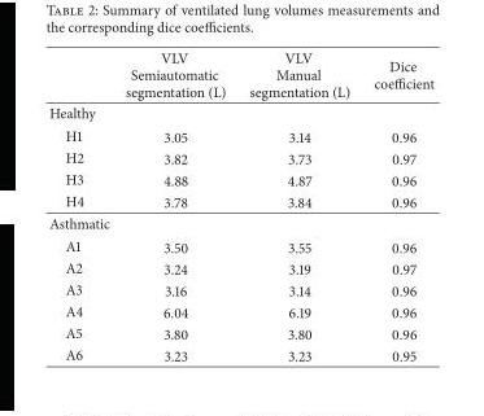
<table><thead><tr><td></td><td>VLV Semiautomatic segmentation (L)</td><td>VLV Manual segmentation (L)</td><td>Dice coefficient</td></tr></thead><tbody><tr><td colspan="4">Healthy</td></tr><tr><td>H1</td><td>3.05</td><td>3.14</td><td>0.96</td></tr><tr><td>H2</td><td>3.82</td><td>3.73</td><td>0.97</td></tr><tr><td>H3</td><td>4.88</td><td>4.87</td><td>0.96</td></tr><tr><td>H4</td><td>3.78</td><td>3.84</td><td>0.96</td></tr><tr><td colspan="4">Asthmatic</td></tr><tr><td>A1</td><td>3.50</td><td>3.55</td><td>0.96</td></tr><tr><td>A2</td><td>3.24</td><td>3.19</td><td>0.97</td></tr><tr><td>A3</td><td>3.16</td><td>3.14</td><td>0.96</td></tr><tr><td>A4</td><td>6.04</td><td>6.19</td><td>0.96</td></tr><tr><td>A5</td><td>3.80</td><td>3.80</td><td>0.96</td></tr><tr><td>A6</td><td>3.23</td><td>3.23</td><td>0.95</td></tr></tbody></table>